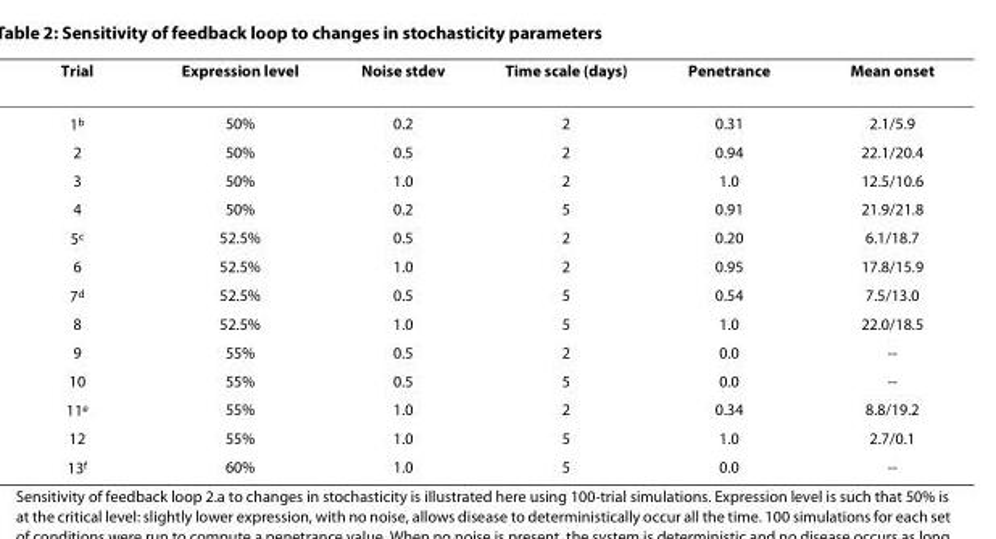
<table><thead><tr><td>Trial</td><td>Expression level</td><td>Noise stdev</td><td>Time scale (days)</td><td>Penetrance</td><td>Mean onset</td></tr></thead><tbody><tr><td>1<sup>b</sup></td><td>50%</td><td>0.2</td><td>2</td><td>0.31</td><td>2.1/5.9</td></tr><tr><td>2</td><td>50%</td><td>0.5</td><td>2</td><td>0.94</td><td>22.1/20.4</td></tr><tr><td>3</td><td>50%</td><td>1.0</td><td>2</td><td>1.0</td><td>12.5/10.6</td></tr><tr><td>4</td><td>50%</td><td>0.2</td><td>5</td><td>0.91</td><td>21.9/21.8</td></tr><tr><td>5<sup>c</sup></td><td>52.5%</td><td>0.5</td><td>2</td><td>0.20</td><td>6.1/18.7</td></tr><tr><td>6</td><td>52.5%</td><td>1.0</td><td>2</td><td>0.95</td><td>17.8/15.9</td></tr><tr><td>7<sup>d</sup></td><td>52.5%</td><td>0.5</td><td>5</td><td>0.54</td><td>7.5/13.0</td></tr><tr><td>8</td><td>52.5%</td><td>1.0</td><td>5</td><td>1.0</td><td>22.0/18.5</td></tr><tr><td>9</td><td>55%</td><td>0.5</td><td>2</td><td>0.0</td><td>--</td></tr><tr><td>10</td><td>55%</td><td>0.5</td><td>5</td><td>0.0</td><td>--</td></tr><tr><td>11<sup>e</sup></td><td>55%</td><td>1.0</td><td>2</td><td>0.34</td><td>8.8/19.2</td></tr><tr><td>12</td><td>55%</td><td>1.0</td><td>5</td><td>1.0</td><td>2.7/0.1</td></tr><tr><td>13<sup>f</sup></td><td>60%</td><td>1.0</td><td>5</td><td>0.0</td><td>--</td></tr></tbody></table>